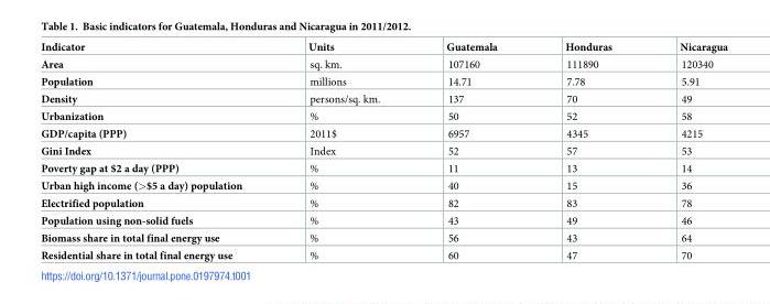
<table><thead><tr><td>Indicator</td><td>Units</td><td>Guatemala</td><td>Honduras</td><td>Nicaragua</td></tr></thead><tbody><tr><td>Area</td><td>sq. km.</td><td>107160</td><td>111890</td><td>120340</td></tr><tr><td>Population</td><td>millions</td><td>14.71</td><td>7.78</td><td>5.91</td></tr><tr><td>Density</td><td>persons/sq. km.</td><td>137</td><td>70</td><td>49</td></tr><tr><td>Urbanization</td><td>%</td><td>50</td><td>52</td><td>58</td></tr><tr><td>GDP/capita (PPP)</td><td>2011$</td><td>6957</td><td>4345</td><td>4215</td></tr><tr><td>Gini Index</td><td>Index</td><td>52</td><td>57</td><td>53</td></tr><tr><td>Poverty gap at $2 a day (PPP)</td><td>%</td><td>11</td><td>13</td><td>14</td></tr><tr><td>Urban high income (&gt;$5 a day) population</td><td>%</td><td>40</td><td>15</td><td>36</td></tr><tr><td>Electrified population</td><td>%</td><td>82</td><td>83</td><td>78</td></tr><tr><td>Population using non-solid fuels</td><td>%</td><td>43</td><td>49</td><td>46</td></tr><tr><td>Biomass share in total final energy use</td><td>%</td><td>56</td><td>43</td><td>64</td></tr><tr><td>Residential share in total final energy use</td><td>%</td><td>60</td><td>47</td><td>70</td></tr></tbody></table>